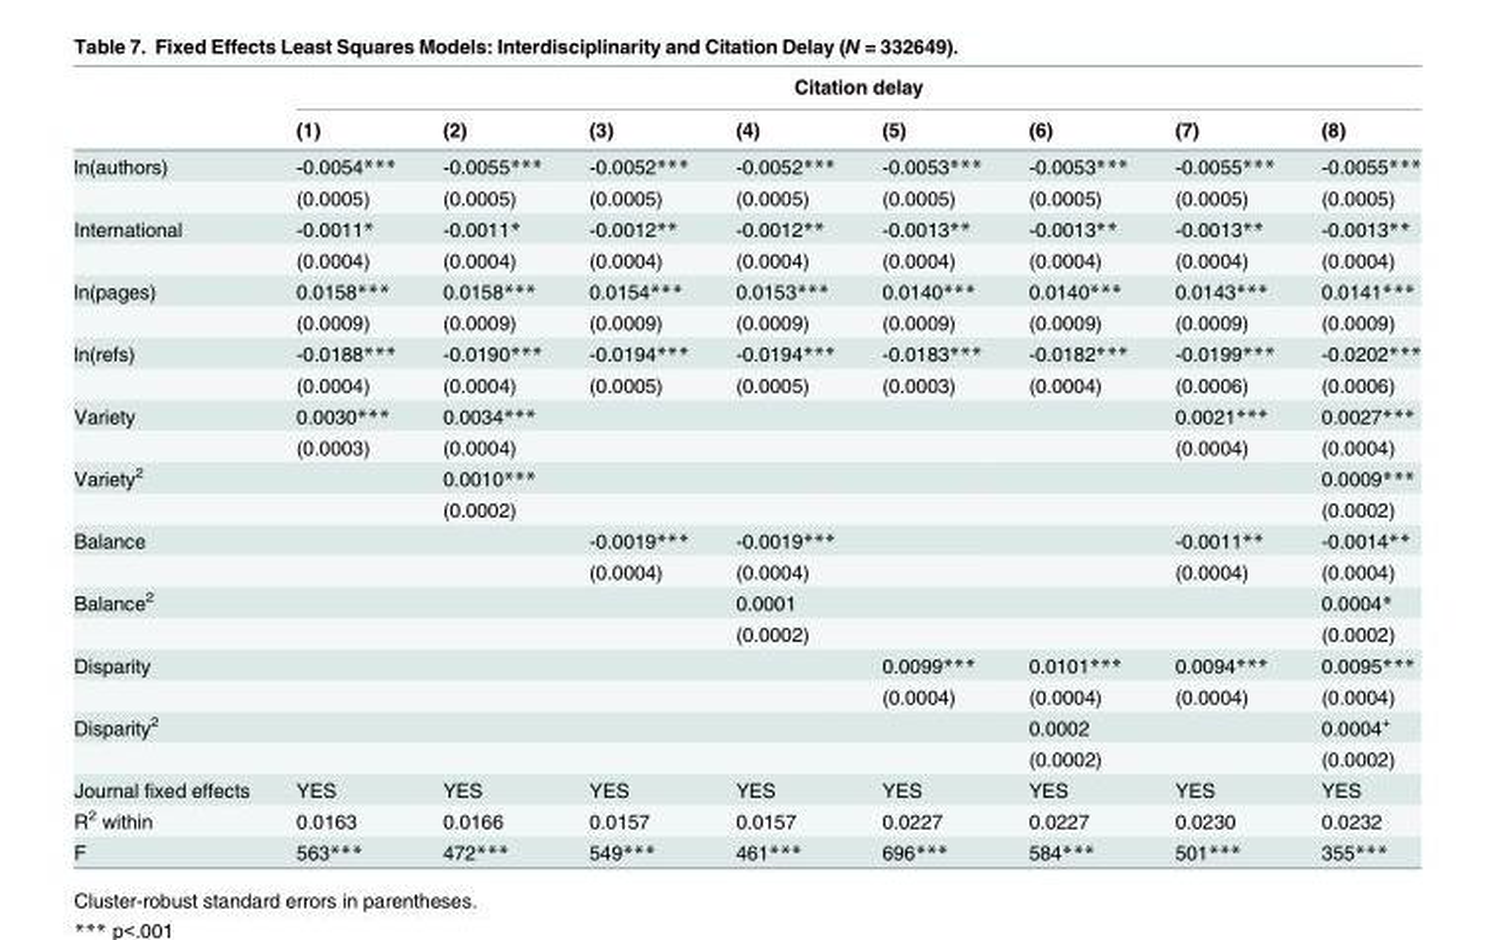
<table><thead><tr><td rowspan="2"></td><td colspan="8">Citation delay</td></tr><tr><td>(1)</td><td>(2)</td><td>(3)</td><td>(4)</td><td>(5)</td><td>(6)</td><td>(7)</td><td>(8)</td></tr></thead><tbody><tr><td rowspan="2">ln(authors)</td><td>-0.0054***</td><td>-0.0055***</td><td>-0.0052***</td><td>-0.0052***</td><td>-0.0053***</td><td>-0.0053***</td><td>-0.0055***</td><td>-0.0055***</td></tr><tr><td>(0.0005)</td><td>(0.0005)</td><td>(0.0005)</td><td>(0.0005)</td><td>(0.0005)</td><td>(0.0005)</td><td>(0.0005)</td><td>(0.0005)</td></tr><tr><td rowspan="2">International</td><td>-0.0011*</td><td>-0.0011*</td><td>-0.0012**</td><td>-0.0012**</td><td>-0.0013**</td><td>-0.0013**</td><td>-0.0013**</td><td>-0.0013**</td></tr><tr><td>(0.0004)</td><td>(0.0004)</td><td>(0.0004)</td><td>(0.0004)</td><td>(0.0004)</td><td>(0.0004)</td><td>(0.0004)</td><td>(0.0004)</td></tr><tr><td rowspan="2">ln(pages)</td><td>0.0158***</td><td>0.0158***</td><td>0.0154***</td><td>0.0153***</td><td>0.0140***</td><td>0.0140***</td><td>0.0143***</td><td>0.0141***</td></tr><tr><td>(0.0009)</td><td>(0.0009)</td><td>(0.0009)</td><td>(0.0009)</td><td>(0.0009)</td><td>(0.0009)</td><td>(0.0009)</td><td>(0.0009)</td></tr><tr><td rowspan="2">ln(refs)</td><td>-0.0188***</td><td>-0.0190***</td><td>-0.0194***</td><td>-0.0194***</td><td>-0.0183***</td><td>-0.0182***</td><td>-0.0199***</td><td>-0.0202***</td></tr><tr><td>(0.0004)</td><td>(0.0004)</td><td>(0.0005)</td><td>(0.0005)</td><td>(0.0003)</td><td>(0.0004)</td><td>(0.0006)</td><td>(0.0006)</td></tr><tr><td rowspan="2">Variety</td><td>0.0030***</td><td>0.0034***</td><td></td><td></td><td></td><td></td><td>0.0021***</td><td>0.0027***</td></tr><tr><td>(0.0003)</td><td>(0.0004)</td><td></td><td></td><td></td><td></td><td>(0.0004)</td><td>(0.0004)</td></tr><tr><td rowspan="2">Variety<sup>2</sup></td><td></td><td>0.0010***</td><td></td><td></td><td></td><td></td><td></td><td>0.0009***</td></tr><tr><td></td><td>(0.0002)</td><td></td><td></td><td></td><td></td><td></td><td>(0.0002)</td></tr><tr><td rowspan="2">Balance</td><td></td><td></td><td>-0.0019***</td><td>-0.0019***</td><td></td><td></td><td>-0.0011**</td><td>-0.0014**</td></tr><tr><td></td><td></td><td>(0.0004)</td><td>(0.0004)</td><td></td><td></td><td>(0.0004)</td><td>(0.0004)</td></tr><tr><td rowspan="2">Balance<sup>2</sup></td><td></td><td></td><td></td><td>0.0001</td><td></td><td></td><td></td><td>0.0004*</td></tr><tr><td></td><td></td><td></td><td>(0.0002)</td><td></td><td></td><td></td><td>(0.0002)</td></tr><tr><td rowspan="2">Disparity</td><td></td><td></td><td></td><td></td><td>0.0099***</td><td>0.0101***</td><td>0.0094***</td><td>0.0095***</td></tr><tr><td></td><td></td><td></td><td></td><td>(0.0004)</td><td>(0.0004)</td><td>(0.0004)</td><td>(0.0004)</td></tr><tr><td rowspan="2">Disparity<sup>2</sup></td><td></td><td></td><td></td><td></td><td></td><td>0.0002</td><td></td><td>0.0004<sup>+</sup></td></tr><tr><td></td><td></td><td></td><td></td><td></td><td>(0.0002)</td><td></td><td>(0.0002)</td></tr><tr><td>Journal fixed effects</td><td>YES</td><td>YES</td><td>YES</td><td>YES</td><td>YES</td><td>YES</td><td>YES</td><td>YES</td></tr><tr><td>R<sup>2</sup> within</td><td>0.0163</td><td>0.0166</td><td>0.0157</td><td>0.0157</td><td>0.0227</td><td>0.0227</td><td>0.0230</td><td>0.0232</td></tr><tr><td>F</td><td>563***</td><td>472***</td><td>549***</td><td>461***</td><td>696***</td><td>584***</td><td>501***</td><td>355***</td></tr></tbody></table>